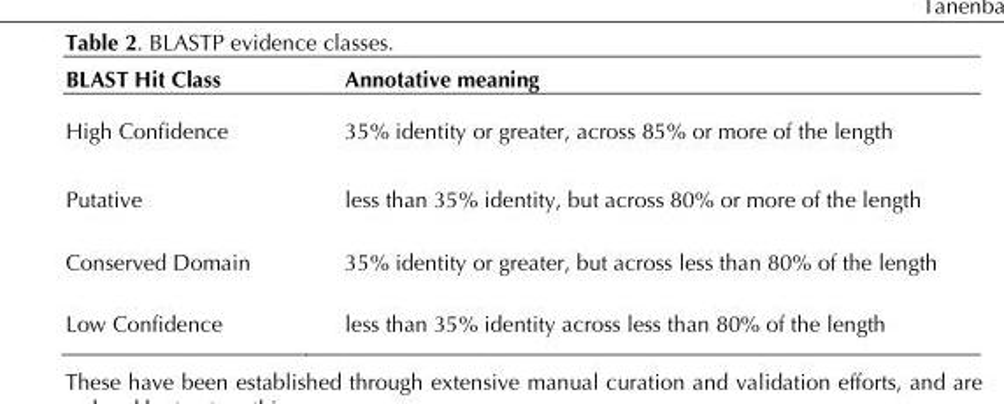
<table><thead><tr><td>BLAST Hit Class</td><td>Annotative meaning</td></tr></thead><tbody><tr><td>High Confidence</td><td>35% identity or greater, across 85% or more of the length</td></tr><tr><td>Putative</td><td>less than 35% identity, but across 80% or more of the length</td></tr><tr><td>Conserved Domain</td><td>35% identity or greater, but across less than 80% of the length</td></tr><tr><td>Low Confidence</td><td>less than 35% identity across less than 80% of the length</td></tr></tbody></table>